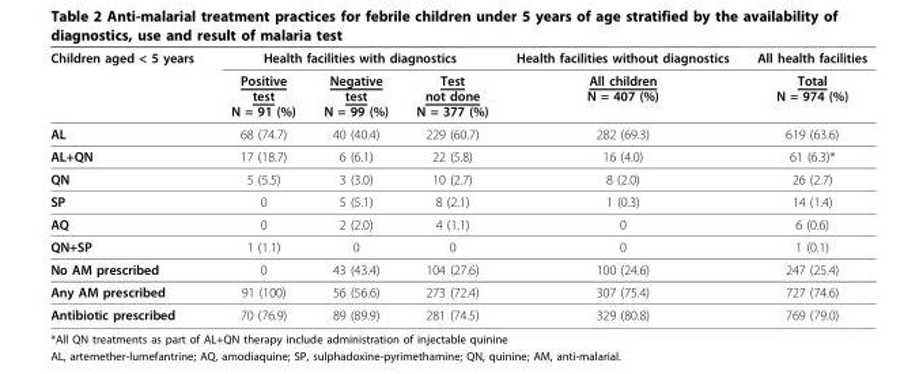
<table><thead><tr><td rowspan="2">Children aged &lt; 5 years</td><td colspan="3">Health facilities with diagnostics</td><td rowspan="2">Health facilities without diagnostics All children N = 407 (%)</td><td rowspan="2">All health facilities Total N = 974 (%)</td></tr><tr><td>Positive test N = 91 (%)</td><td>Negative test N = 99 (%)</td><td>Test not done N = 377 (%)</td></tr></thead><tbody><tr><td>AL</td><td>68 (74.7)</td><td>40 (40.4)</td><td>229 (60.7)</td><td>282 (69.3)</td><td>619 (63.6)</td></tr><tr><td>AL+QN</td><td>17 (18.7)</td><td>6 (6.1)</td><td>22 (5.8)</td><td>16 (4.0)</td><td>61 (6.3)*</td></tr><tr><td>QN</td><td>5 (5.5)</td><td>3 (3.0)</td><td>10 (2.7)</td><td>8 (2.0)</td><td>26 (2.7)</td></tr><tr><td>SP</td><td>0</td><td>5 (5.1)</td><td>8 (2.1)</td><td>1 (0.3)</td><td>14 (1.4)</td></tr><tr><td>AQ</td><td>0</td><td>2 (2.0)</td><td>4 (1.1)</td><td>0</td><td>6 (0.6)</td></tr><tr><td>QN+SP</td><td>1 (1.1)</td><td>0</td><td>0</td><td>0</td><td>1 (0.1)</td></tr><tr><td>No AM prescribed</td><td>0</td><td>43 (43.4)</td><td>104 (27.6)</td><td>100 (24.6)</td><td>247 (25.4)</td></tr><tr><td>Any AM prescribed</td><td>91 (100)</td><td>56 (56.6)</td><td>273 (72.4)</td><td>307 (75.4)</td><td>727 (74.6)</td></tr><tr><td>Antibiotic prescribed</td><td>70 (76.9)</td><td>89 (89.9)</td><td>281 (74.5)</td><td>329 (80.8)</td><td>769 (79.0)</td></tr></tbody></table>